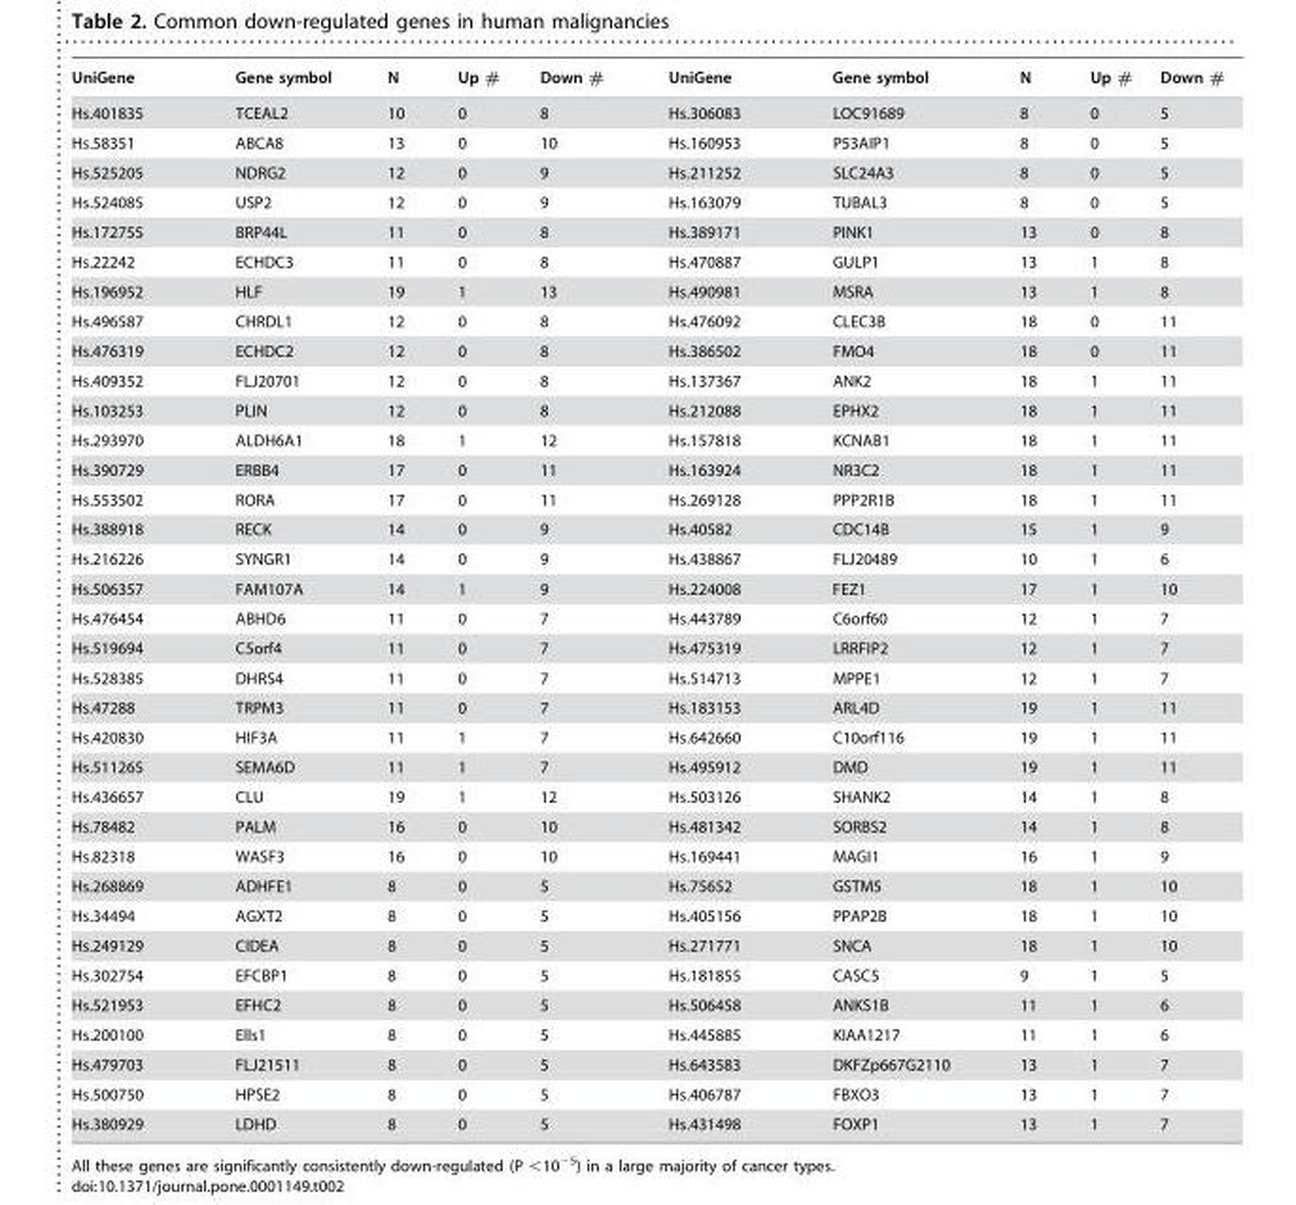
<table><thead><tr><td>UniGene</td><td>Gene symbol</td><td>N</td><td>Up #</td><td>Down #</td><td>UniGene</td><td>Gene symbol</td><td>N</td><td>Up #</td><td>Down #</td></tr></thead><tbody><tr><td>Hs.401835</td><td>TCEAL2</td><td>10</td><td>0</td><td>8</td><td>Hs.306083</td><td>LOC91689</td><td>8</td><td>0</td><td>5</td></tr><tr><td>Hs.58351</td><td>ABCA8</td><td>13</td><td>0</td><td>10</td><td>Hs.160953</td><td>P53AIP1</td><td>8</td><td>0</td><td>5</td></tr><tr><td>Hs.525205</td><td>NDRG2</td><td>12</td><td>0</td><td>9</td><td>Hs.211252</td><td>SLC24A3</td><td>8</td><td>0</td><td>5</td></tr><tr><td>Hs.524085</td><td>USP2</td><td>12</td><td>0</td><td>9</td><td>Hs.163079</td><td>TUBAL3</td><td>8</td><td>0</td><td>5</td></tr><tr><td>Hs.172755</td><td>BRP44L</td><td>11</td><td>0</td><td>8</td><td>Hs.389171</td><td>PINK1</td><td>13</td><td>0</td><td>8</td></tr><tr><td>Hs.22242</td><td>ECHDC3</td><td>11</td><td>0</td><td>8</td><td>Hs.470887</td><td>GULP1</td><td>13</td><td>1</td><td>8</td></tr><tr><td>Hs.196952</td><td>HLF</td><td>19</td><td>1</td><td>13</td><td>Hs.490981</td><td>MSRA</td><td>13</td><td>1</td><td>8</td></tr><tr><td>Hs.496587</td><td>CHRDL1</td><td>12</td><td>0</td><td>8</td><td>Hs.476092</td><td>CLEC3B</td><td>18</td><td>0</td><td>11</td></tr><tr><td>Hs.476319</td><td>ECHDC2</td><td>12</td><td>0</td><td>8</td><td>Hs.386502</td><td>FMO4</td><td>18</td><td>0</td><td>11</td></tr><tr><td>Hs.409352</td><td>FLJ20701</td><td>12</td><td>0</td><td>8</td><td>Hs.137367</td><td>ANK2</td><td>18</td><td>1</td><td>11</td></tr><tr><td>Hs.103253</td><td>PLIN</td><td>12</td><td>0</td><td>8</td><td>Hs.212088</td><td>EPHX2</td><td>18</td><td>1</td><td>11</td></tr><tr><td>Hs.293970</td><td>ALDH6A1</td><td>18</td><td>1</td><td>12</td><td>Hs.157818</td><td>KCNAB1</td><td>18</td><td>1</td><td>11</td></tr><tr><td>Hs.390729</td><td>ERBB4</td><td>17</td><td>0</td><td>11</td><td>Hs.163924</td><td>NR3C2</td><td>18</td><td>1</td><td>11</td></tr><tr><td>Hs.553502</td><td>RORA</td><td>17</td><td>0</td><td>11</td><td>Hs.269128</td><td>PPP2R1B</td><td>18</td><td>1</td><td>11</td></tr><tr><td>Hs.388918</td><td>RECK</td><td>14</td><td>0</td><td>9</td><td>Hs.40582</td><td>CDC14B</td><td>15</td><td>1</td><td>9</td></tr><tr><td>Hs.216226</td><td>SYNGR1</td><td>14</td><td>0</td><td>9</td><td>Hs.438867</td><td>FLJ20489</td><td>10</td><td>1</td><td>6</td></tr><tr><td>Hs.506357</td><td>FAM107A</td><td>14</td><td>1</td><td>9</td><td>Hs.224008</td><td>FEZ1</td><td>17</td><td>1</td><td>10</td></tr><tr><td>Hs.476454</td><td>ABHD6</td><td>11</td><td>0</td><td>7</td><td>Hs.443789</td><td>C6orf60</td><td>12</td><td>1</td><td>7</td></tr><tr><td>Hs.519694</td><td>C5orf4</td><td>11</td><td>0</td><td>7</td><td>Hs.475319</td><td>LRRFIP2</td><td>12</td><td>1</td><td>7</td></tr><tr><td>Hs.528385</td><td>DHRS4</td><td>11</td><td>0</td><td>7</td><td>Hs.514713</td><td>MPPE1</td><td>12</td><td>1</td><td>7</td></tr><tr><td>Hs.47288</td><td>TRPM3</td><td>11</td><td>0</td><td>7</td><td>Hs.183153</td><td>ARL4D</td><td>19</td><td>1</td><td>11</td></tr><tr><td>Hs.420830</td><td>HIF3A</td><td>11</td><td>1</td><td>7</td><td>Hs.642660</td><td>C10orf116</td><td>19</td><td>1</td><td>11</td></tr><tr><td>Hs.511265</td><td>SEMA6D</td><td>11</td><td>1</td><td>7</td><td>Hs.495912</td><td>DMD</td><td>19</td><td>1</td><td>11</td></tr><tr><td>Hs.436657</td><td>CLU</td><td>19</td><td>1</td><td>12</td><td>Hs.503126</td><td>SHANK2</td><td>14</td><td>1</td><td>8</td></tr><tr><td>Hs.78482</td><td>PALM</td><td>16</td><td>0</td><td>10</td><td>Hs.481342</td><td>SORBS2</td><td>14</td><td>1</td><td>8</td></tr><tr><td>Hs.82318</td><td>WASF3</td><td>16</td><td>0</td><td>10</td><td>Hs.169441</td><td>MAGI1</td><td>16</td><td>1</td><td>9</td></tr><tr><td>Hs.268869</td><td>ADHFE1</td><td>8</td><td>0</td><td>5</td><td>Hs.75652</td><td>GSTM5</td><td>18</td><td>1</td><td>10</td></tr><tr><td>Hs.34494</td><td>AGXT2</td><td>8</td><td>0</td><td>5</td><td>Hs.405156</td><td>PPAP2B</td><td>18</td><td>1</td><td>10</td></tr><tr><td>Hs.249129</td><td>CIDEA</td><td>8</td><td>0</td><td>5</td><td>Hs.271771</td><td>SNCA</td><td>18</td><td>1</td><td>10</td></tr><tr><td>Hs.302754</td><td>EFCBP1</td><td>8</td><td>0</td><td>5</td><td>Hs.181855</td><td>CASC5</td><td>9</td><td>1</td><td>5</td></tr><tr><td>Hs.521953</td><td>EFHC2</td><td>8</td><td>0</td><td>5</td><td>Hs.506458</td><td>ANKS1B</td><td>11</td><td>1</td><td>6</td></tr><tr><td>Hs.200100</td><td>Ells1</td><td>8</td><td>0</td><td>5</td><td>Hs.445885</td><td>KIAA1217</td><td>11</td><td>1</td><td>6</td></tr><tr><td>Hs.479703</td><td>FLJ21511</td><td>8</td><td>0</td><td>5</td><td>Hs.643583</td><td>DKFZp667G2110</td><td>13</td><td>1</td><td>7</td></tr><tr><td>Hs.500750</td><td>HPSE2</td><td>8</td><td>0</td><td>5</td><td>Hs.406787</td><td>FBXO3</td><td>13</td><td>1</td><td>7</td></tr><tr><td>Hs.380929</td><td>LDHD</td><td>8</td><td>0</td><td>5</td><td>Hs.431498</td><td>FOXP1</td><td>13</td><td>1</td><td>7</td></tr></tbody></table>